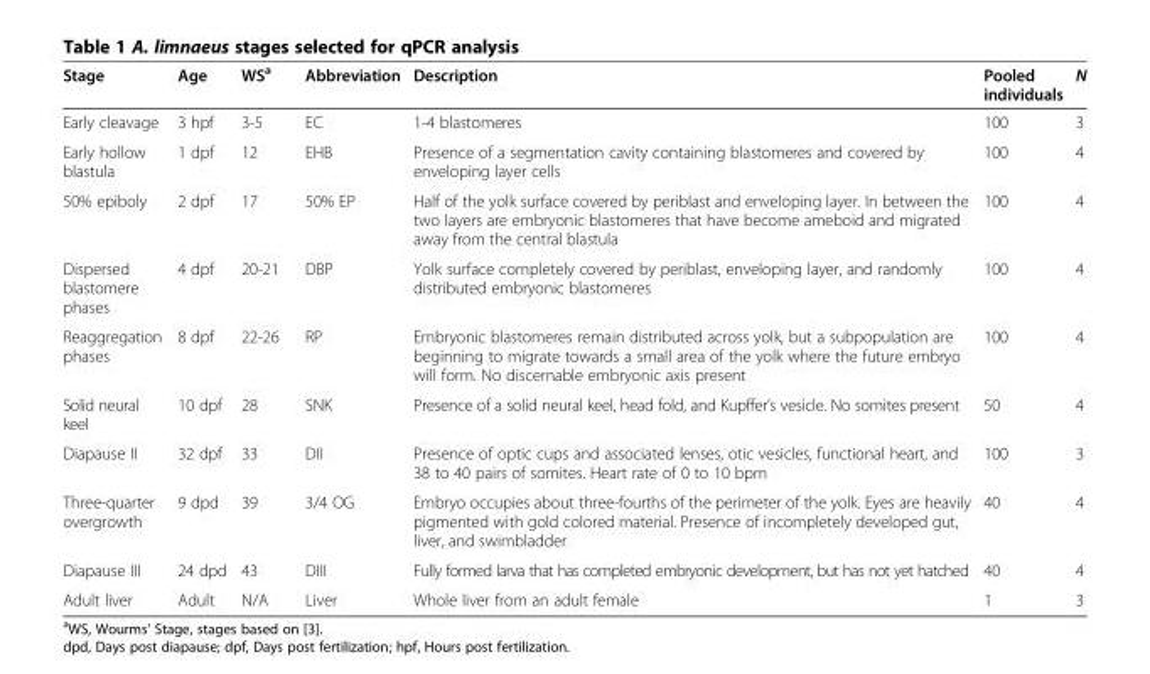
<table><thead><tr><td>Stage</td><td>Age</td><td>WS<sup>a</sup></td><td>Abbreviation</td><td>Description</td><td>Pooled individuals</td><td>N</td></tr></thead><tbody><tr><td>Early cleavage</td><td>3 hpf</td><td>3-5</td><td>EC</td><td>1-4 blastomeres</td><td>100</td><td>3</td></tr><tr><td>Early hollow blastula</td><td>1 dpf</td><td>12</td><td>EHB</td><td>Presence of a segmentation cavity containing blastomeres and covered by enveloping layer cells</td><td>100</td><td>4</td></tr><tr><td>50% epiboly</td><td>2 dpf</td><td>17</td><td>50% EP</td><td>Half of the yolk surface covered by periblast and enveloping layer. In between the two layers are embryonic blastomeres that have become ameboid and migrated away from the central blastula</td><td>100</td><td>4</td></tr><tr><td>Dispersed blastomere phases</td><td>4 dpf</td><td>20-21</td><td>DBP</td><td>Yolk surface completely covered by periblast, enveloping layer, and randomly distributed embryonic blastomeres</td><td>100</td><td>4</td></tr><tr><td>Reaggregation phases</td><td>8 dpf</td><td>22-26</td><td>RP</td><td>Embryonic blastomeres remain distributed across yolk, but a subpopulation are beginning to migrate towards a small area of the yolk where the future embryo will form. No discernable embryonic axis present</td><td>100</td><td>4</td></tr><tr><td>Solid neural keel</td><td>10 dpf</td><td>28</td><td>SNK</td><td>Presence of a solid neural keel, head fold, and Kupffer’s vesicle. No somites present</td><td>50</td><td>4</td></tr><tr><td>Diapause II</td><td>32 dpf</td><td>33</td><td>DII</td><td>Presence of optic cups and associated lenses, otic vesicles, functional heart, and 38 to 40 pairs of somites. Heart rate of 0 to 10 bpm</td><td>100</td><td>3</td></tr><tr><td>Three-quarter overgrowth</td><td>9 dpd</td><td>39</td><td>3/4 OG</td><td>Embryo occupies about three-fourths of the perimeter of the yolk. Eyes are heavily pigmented with gold colored material. Presence of incompletely developed gut, liver, and swimbladder</td><td>40</td><td>4</td></tr><tr><td>Diapause III</td><td>24 dpd</td><td>43</td><td>DIII</td><td>Fully formed larva that has completed embryonic development, but has not yet hatched</td><td>40</td><td>4</td></tr><tr><td>Adult liver</td><td>Adult</td><td>N/A</td><td>Liver</td><td>Whole liver from an adult female</td><td>1</td><td>3</td></tr></tbody></table>